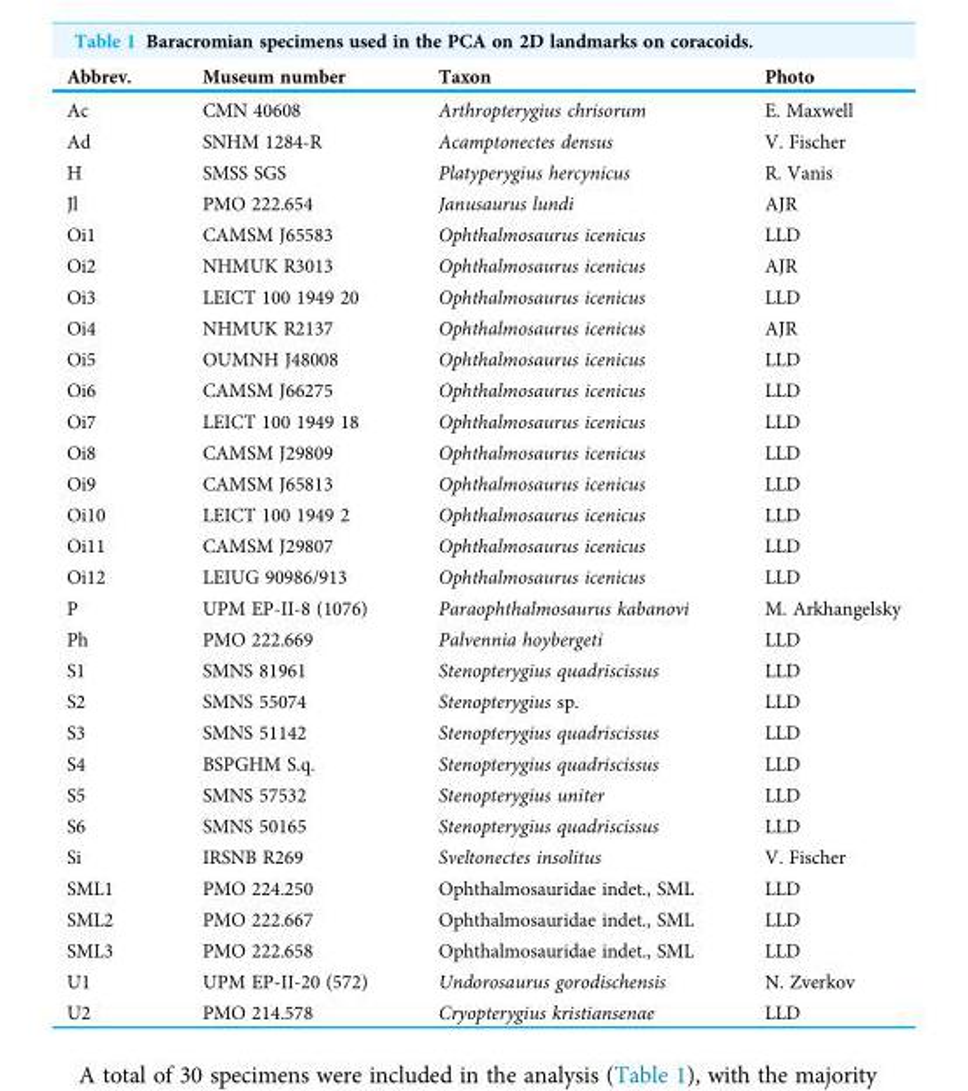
<table><thead><tr><td>Abbrev.</td><td>Museum number</td><td>Taxon</td><td>Photo</td></tr></thead><tbody><tr><td>Ac</td><td>CMN 40608</td><td>Arthropterygius chrisorum</td><td>E. Maxwell</td></tr><tr><td>Ad</td><td>SNHM 1284-R</td><td>Acamptonectes densus</td><td>V. Fischer</td></tr><tr><td>H</td><td>SMSS SGS</td><td>Platyperygius hercynicus</td><td>R. Vanis</td></tr><tr><td>Jl</td><td>PMO 222.654</td><td>Janusaurus lundi</td><td>AJR</td></tr><tr><td>Oi1</td><td>CAMSM J65583</td><td>Ophthalmosaurus icenicus</td><td>LLD</td></tr><tr><td>Oi2</td><td>NHMUK R3013</td><td>Ophthalmosaurus icenicus</td><td>AJR</td></tr><tr><td>Oi3</td><td>LEICT 100 1949 20</td><td>Ophthalmosaurus icenicus</td><td>LLD</td></tr><tr><td>Oi4</td><td>NHMUK R2137</td><td>Ophthalmosaurus icenicus</td><td>AJR</td></tr><tr><td>Oi5</td><td>OUMNH J48008</td><td>Ophthalmosaurus icenicus</td><td>LLD</td></tr><tr><td>Oi6</td><td>CAMSM J66275</td><td>Ophthalmosaurus icenicus</td><td>LLD</td></tr><tr><td>Oi7</td><td>LEICT 100 1949 18</td><td>Ophthalmosaurus icenicus</td><td>LLD</td></tr><tr><td>Oi8</td><td>CAMSM J29809</td><td>Ophthalmosaurus icenicus</td><td>LLD</td></tr><tr><td>Oi9</td><td>CAMSM J65813</td><td>Ophthalmosaurus icenicus</td><td>LLD</td></tr><tr><td>Oi10</td><td>LEICT 100 1949 2</td><td>Ophthalmosaurus icenicus</td><td>LLD</td></tr><tr><td>Oi11</td><td>CAMSM J29807</td><td>Ophthalmosaurus icenicus</td><td>LLD</td></tr><tr><td>Oi12</td><td>LEIUG 90986/913</td><td>Ophthalmosaurus icenicus</td><td>LLD</td></tr><tr><td>P</td><td>UPM EP-II-8 (1076)</td><td>Paraophthalmosaurus kabanovi</td><td>M. Arkhangelsky</td></tr><tr><td>Ph</td><td>PMO 222.669</td><td>Palvennia hoybergeti</td><td>LLD</td></tr><tr><td>S1</td><td>SMNS 81961</td><td>Stenopterygius quadriscissus</td><td>LLD</td></tr><tr><td>S2</td><td>SMNS 55074</td><td>Stenopterygius sp.</td><td>LLD</td></tr><tr><td>S3</td><td>SMNS 51142</td><td>Stenopterygius quadriscissus</td><td>LLD</td></tr><tr><td>S4</td><td>BSPGHM S.q.</td><td>Stenopterygius quadriscissus</td><td>LLD</td></tr><tr><td>S5</td><td>SMNS 57532</td><td>Stenopterygius uniter</td><td>LLD</td></tr><tr><td>S6</td><td>SMNS 50165</td><td>Stenopterygius quadriscissus</td><td>LLD</td></tr><tr><td>Si</td><td>IRSNB R269</td><td>Sveltonectes insolitus</td><td>V. Fischer</td></tr><tr><td>SML1</td><td>PMO 224.250</td><td>Ophthalmosauridae indet., SML</td><td>LLD</td></tr><tr><td>SML2</td><td>PMO 222.667</td><td>Ophthalmosauridae indet., SML</td><td>LLD</td></tr><tr><td>SML3</td><td>PMO 222.658</td><td>Ophthalmosauridae indet., SML</td><td>LLD</td></tr><tr><td>U1</td><td>UPM EP-II-20 (572)</td><td>Undorosaurus gorodischensis</td><td>N. Zverkov</td></tr><tr><td>U2</td><td>PMO 214.578</td><td>Cryopterygius kristiansenae</td><td>LLD</td></tr></tbody></table>